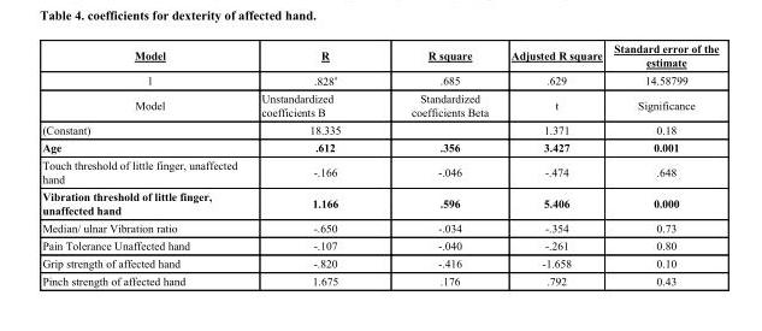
<table><thead><tr><td>Model</td><td>R</td><td>R square</td><td>Adjusted R square</td><td>Standard error of the estimate</td></tr></thead><tbody><tr><td>1</td><td>.828 <sup>a</sup></td><td>.685</td><td>.629</td><td>14.58799</td></tr><tr><td>Model</td><td>Unstandardized coefficients B</td><td>Standardized coefficients Beta</td><td>t</td><td>Significance</td></tr><tr><td>(Constant)</td><td>18.335</td><td></td><td>1.371</td><td>0.18</td></tr><tr><td>Age</td><td>.612</td><td>.356</td><td>3.427</td><td>0.001</td></tr><tr><td>Touch threshold of little finger, unaffected hand</td><td>-.166</td><td>-.046</td><td>-.474</td><td>.648</td></tr><tr><td>Vibration threshold of little finger, unaffected hand</td><td>1.166</td><td>.596</td><td>5.406</td><td>0.000</td></tr><tr><td>Median/ ulnar Vibration ratio</td><td>-.650</td><td>-.034</td><td>-.354</td><td>0.73</td></tr><tr><td>Pain Tolerance Unaffected hand</td><td>-.107</td><td>-.040</td><td>-.261</td><td>0.80</td></tr><tr><td>Grip strength of affected hand</td><td>-.820</td><td>-.416</td><td>-1.658</td><td>0.10</td></tr><tr><td>Pinch strength of affected hand</td><td>1.675</td><td>.176</td><td>.792</td><td>0.43</td></tr></tbody></table>